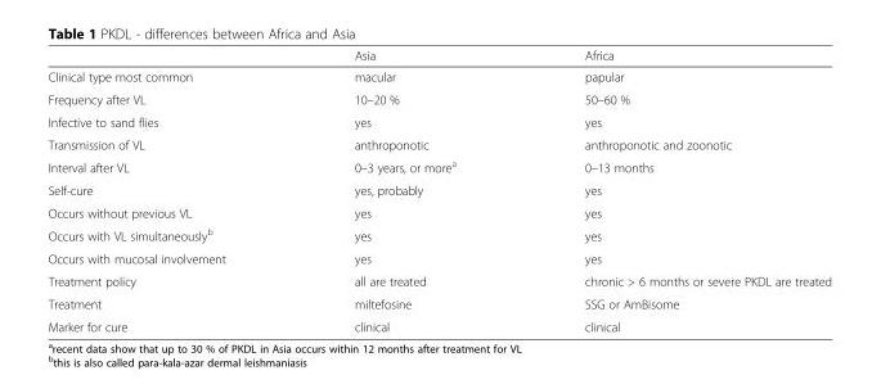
<table><thead><tr><td></td><td>Asia</td><td>Africa</td></tr></thead><tbody><tr><td>Clinical type most common</td><td>macular</td><td>papular</td></tr><tr><td>Frequency after VL</td><td>10–20 %</td><td>50–60 %</td></tr><tr><td>Infective to sand flies</td><td>yes</td><td>yes</td></tr><tr><td>Transmission of VL</td><td>anthroponotic</td><td>anthroponotic and zoonotic</td></tr><tr><td>Interval after VL</td><td>0–3 years, or more<sup>a</sup></td><td>0–13 months</td></tr><tr><td>Self-cure</td><td>yes, probably</td><td>yes</td></tr><tr><td>Occurs without previous VL</td><td>yes</td><td>yes</td></tr><tr><td>Occurs with VL simultaneously<sup>b</sup></td><td>yes</td><td>yes</td></tr><tr><td>Occurs with mucosal involvement</td><td>yes</td><td>yes</td></tr><tr><td>Treatment policy</td><td>all are treated</td><td>chronic &gt; 6 months or severe PKDL are treated</td></tr><tr><td>Treatment</td><td>miltefosine</td><td>SSG or AmBisome</td></tr><tr><td>Marker for cure</td><td>clinical</td><td>clinical</td></tr></tbody></table>